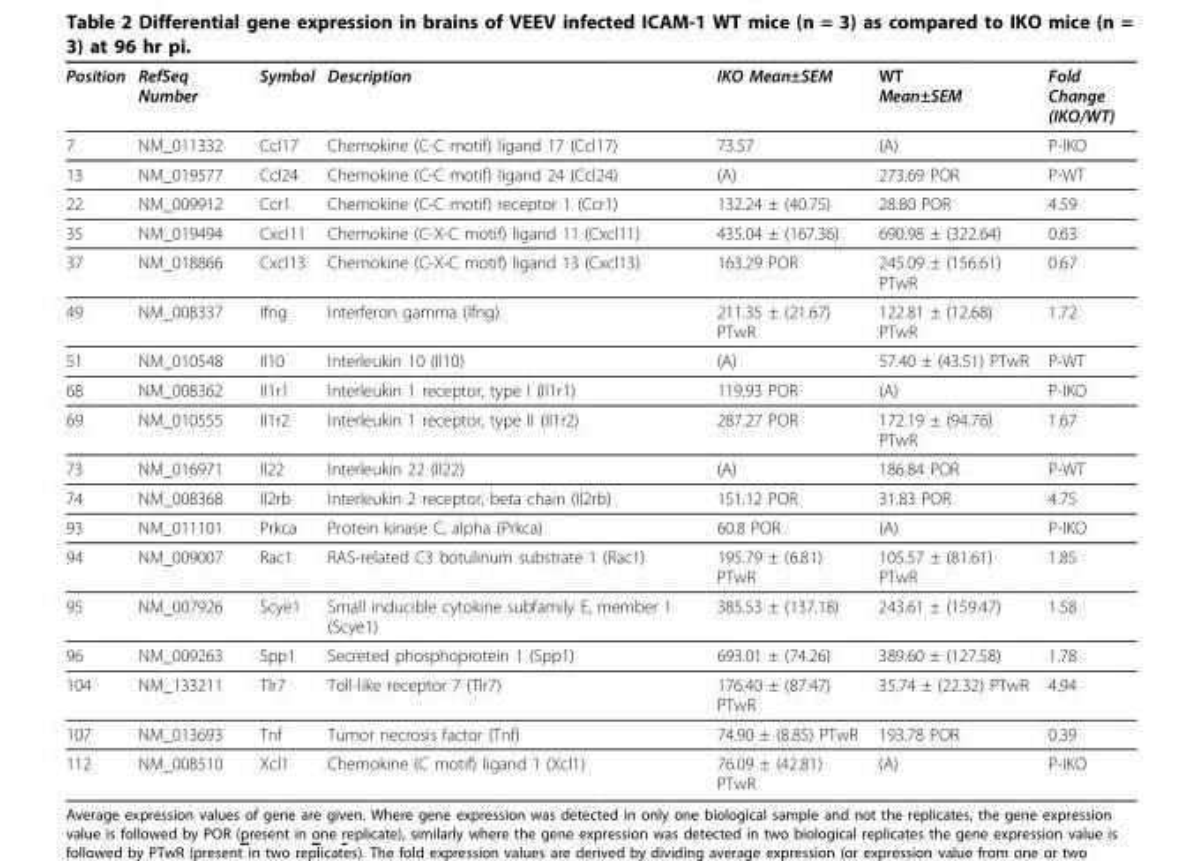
<table><thead><tr><td>Position</td><td>RefSeq Number</td><td>Symbol</td><td>Description</td><td>IKO Mean±SEM</td><td>WT Mean±SEM</td><td>Fold Change (IKO/WT)</td></tr></thead><tbody><tr><td>7</td><td>NM_011332</td><td>Ccl17</td><td>Chemokine (C-C motif) ligand 17 (Ccl17)</td><td>73.57</td><td>(A)</td><td>P-IKO</td></tr><tr><td>13</td><td>NM_019577</td><td>Ccl24</td><td>Chemokine (C-C motif) ligand 24 (Ccl24)</td><td>(A)</td><td>273.69 POR</td><td>P-WT</td></tr><tr><td>22</td><td>NM_009912</td><td>Ccr1</td><td>Chemokine (C-C motif) receptor 1 (Ccr1)</td><td>132.24 ± (40.75)</td><td>28.80 POR</td><td>4.59</td></tr><tr><td>35</td><td>NM_019494</td><td>Cxcl11</td><td>Chemokine (C-X-C motif) ligand 11 (Cxcl11)</td><td>435.04 ± (167.36)</td><td>690.98 ± (322.64)</td><td>0.63</td></tr><tr><td>37</td><td>NM_018866</td><td>Cxcl13</td><td>Chemokine (C-X-C motif) ligand 13 (Cxcl13)</td><td>163.29 POR</td><td>245.09 ± (156.61) PTwR</td><td>0.67</td></tr><tr><td>49</td><td>NM_008337</td><td>Ifng</td><td>Interferon gamma (Ifng)</td><td>211.35 ± (21.67) PTwR</td><td>122.81 ± (12.68) PTwR</td><td>1.72</td></tr><tr><td>51</td><td>NM_010548</td><td>Il10</td><td>Interleukin 10 (Il10)</td><td>(A)</td><td>57.40 ± (43.51) PTwR</td><td>P-WT</td></tr><tr><td>68</td><td>NM_008362</td><td>Il1r1</td><td>Interleukin 1 receptor, type I (Il1r1)</td><td>119.93 POR</td><td>(A)</td><td>P-IKO</td></tr><tr><td>69</td><td>NM_010555</td><td>Il1r2</td><td>Interleukin 1 receptor, type II (Il1r2)</td><td>287.27 POR</td><td>172.19 ± (94.76) PTwR</td><td>1.67</td></tr><tr><td>73</td><td>NM_016971</td><td>Il22</td><td>Interleukin 22 (Il22)</td><td>(A)</td><td>186.84 POR</td><td>P-WT</td></tr><tr><td>74</td><td>NM_008368</td><td>Il2rb</td><td>Interleukin 2 receptor, beta chain (Il2rb)</td><td>151.12 POR</td><td>31.83 POR</td><td>4.75</td></tr><tr><td>93</td><td>NM_011101</td><td>Prkca</td><td>Protein kinase C, alpha (Prkca)</td><td>60.8 POR</td><td>(A)</td><td>P-IKO</td></tr><tr><td>94</td><td>NM_009007</td><td>Rac1</td><td>RAS-related C3 botulinum substrate 1 (Rac1)</td><td>195.79 ± (6.81) PTwR</td><td>105.57 ± (81.61) PTwR</td><td>1.85</td></tr><tr><td>95</td><td>NM_007926</td><td>Scye1</td><td>Small inducible cytokine subfamily E, member 1 (Scye1)</td><td>385.53 ± (137.18)</td><td>243.61 ± (159.47)</td><td>1.58</td></tr><tr><td>96</td><td>NM_009263</td><td>Spp1</td><td>Secreted phosphoprotein 1 (Spp1)</td><td>693.01 ± (74.26)</td><td>389.60 ± (127.58)</td><td>1.78</td></tr><tr><td>104</td><td>NM_133211</td><td>Tlr7</td><td>Toll-like receptor 7 (Tlr7)</td><td>176.40 ± (87.47) PTwR</td><td>35.74 ± (22.32) PTwR</td><td>4.94</td></tr><tr><td>107</td><td>NM_013693</td><td>Tnf</td><td>Tumor necrosis factor (Tnf)</td><td>74.90 ± (8.85) PTwR</td><td>193.78 POR</td><td>0.39</td></tr><tr><td>112</td><td>NM_008510</td><td>Xcl1</td><td>Chemokine (C motif) ligand 1 (Xcl1)</td><td>76.09 ± (42.81) PTwR</td><td>(A)</td><td>P-IKO</td></tr></tbody></table>